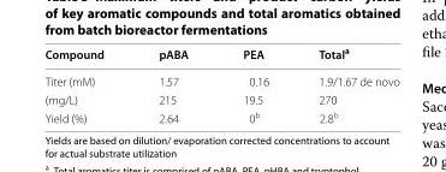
<table><thead><tr><td>Compound</td><td>pABA</td><td>PEA</td><td>Total<sup>a</sup></td></tr></thead><tbody><tr><td>Titer (mM)</td><td>1.57</td><td>0.16</td><td>1.9/1.67 de novo</td></tr><tr><td>(mg/L)</td><td>215</td><td>19.5</td><td>270</td></tr><tr><td>Yield (%)</td><td>2.64</td><td>0<sup>b</sup></td><td>2.8<sup>b</sup></td></tr></tbody></table>